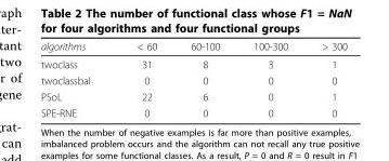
<table><thead><tr><td>algorithms</td><td>&lt; 60</td><td>60-100</td><td>100-300</td><td>&gt; 300</td></tr></thead><tbody><tr><td>twoclass</td><td>31</td><td>8</td><td>3</td><td>1</td></tr><tr><td>twoclassbal</td><td>0</td><td>0</td><td>0</td><td>0</td></tr><tr><td>PSoL</td><td>22</td><td>6</td><td>0</td><td>1</td></tr><tr><td>SPE-RNE</td><td>0</td><td>0</td><td>0</td><td>0</td></tr></tbody></table>